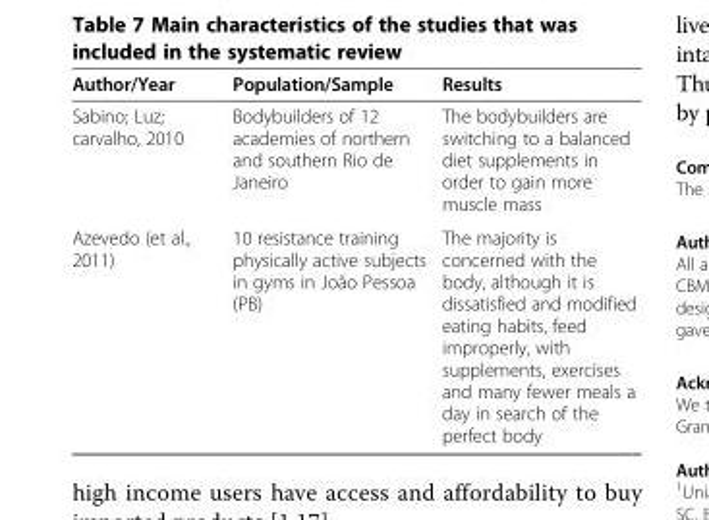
<table><thead><tr><td>Author/Year</td><td>Population/Sample</td><td>Results</td></tr></thead><tbody><tr><td>Sabino; Luz; carvalho, 2010</td><td>Bodybuilders of 12 academies of northern and southern Rio de Janeiro</td><td>The bodybuilders are switching to a balanced diet supplements in order to gain more muscle mass</td></tr><tr><td>Azevedo (et al., 2011)</td><td>10 resistance training physically active subjects in gyms in João Pessoa (PB)</td><td>The majority is concerned with the body, although it is dissatisfied and modified eating habits, feed improperly, with supplements, exercises and many fewer meals a day in search of the perfect body</td></tr></tbody></table>